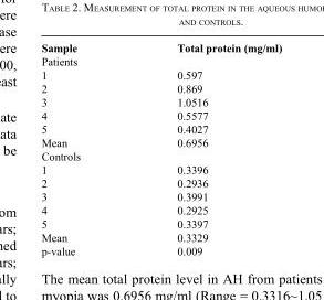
<table><thead><tr><td>Sample</td><td>Total protein (mg/ml)</td></tr></thead><tbody><tr><td colspan="2">Patients</td></tr><tr><td>1</td><td>0.597</td></tr><tr><td>2</td><td>0.869</td></tr><tr><td>3</td><td>1.0516</td></tr><tr><td>4</td><td>0.5577</td></tr><tr><td>5</td><td>0.4027</td></tr><tr><td>Mean</td><td>0.6956</td></tr><tr><td colspan="2">Controls</td></tr><tr><td>1</td><td>0.3396</td></tr><tr><td>2</td><td>0.2936</td></tr><tr><td>3</td><td>0.3991</td></tr><tr><td>4</td><td>0.2925</td></tr><tr><td>5</td><td>0.3397</td></tr><tr><td>Mean</td><td>0.3329</td></tr><tr><td>p-value</td><td>0.009</td></tr></tbody></table>